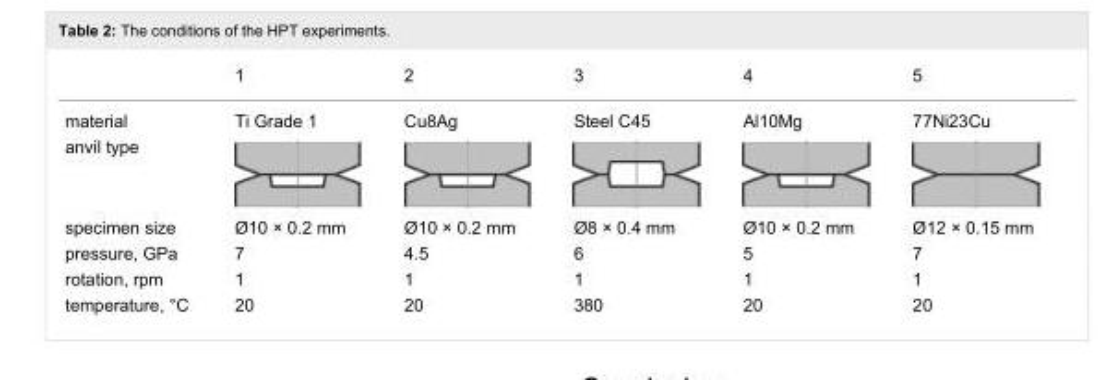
<table><thead><tr><td></td><td>1</td><td>2</td><td>3</td><td>4</td><td>5</td></tr></thead><tbody><tr><td>material</td><td>Ti Grade 1</td><td>Cu8Ag</td><td>Steel C45</td><td>Al10Mg</td><td>77Ni23Cu</td></tr><tr><td colspan="6">anvil type</td></tr><tr><td>specimen size</td><td>Ø10 × 0.2 mm</td><td>Ø10 × 0.2 mm</td><td>Ø8 × 0.4 mm</td><td>Ø10 × 0.2 mm</td><td>Ø12 × 0.15 mm</td></tr><tr><td>pressure, GPa</td><td>7</td><td>4.5</td><td>6</td><td>5</td><td>7</td></tr><tr><td>rotation, rpm</td><td>1</td><td>1</td><td>1</td><td>1</td><td>1</td></tr><tr><td>temperature, °C</td><td>20</td><td>20</td><td>380</td><td>20</td><td>20</td></tr></tbody></table>